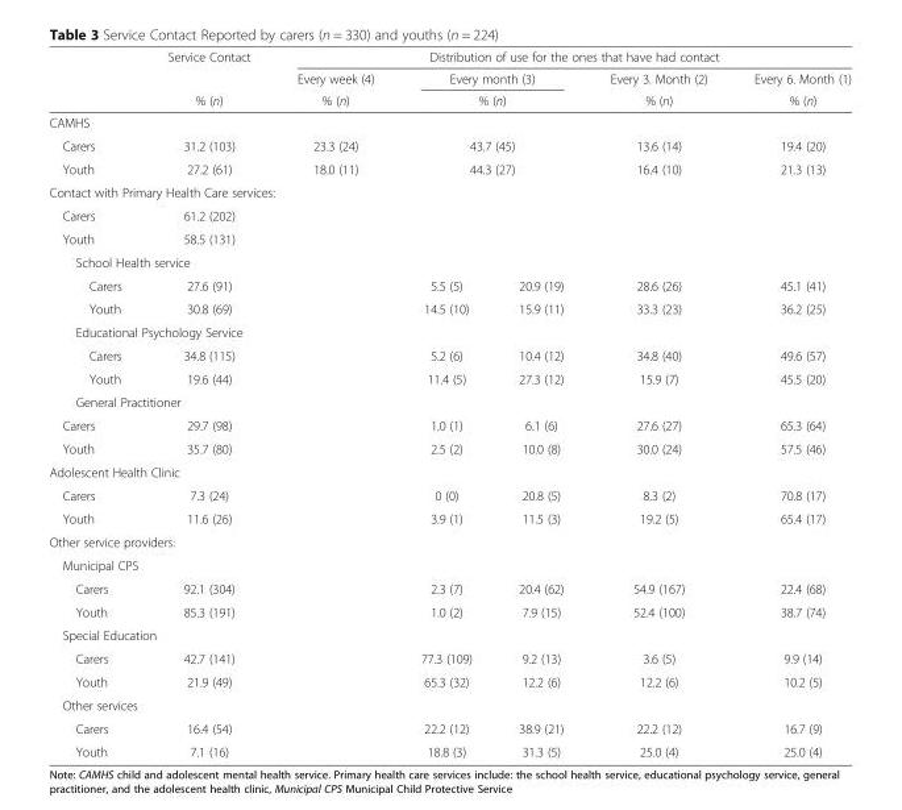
<table><thead><tr><td rowspan="3"></td><td rowspan="3">Service Contact % (n)</td><td colspan="5">Distribution of use for the ones that have had contact</td></tr><tr><td rowspan="2">Every week (4) % (n)</td><td rowspan="2" colspan="2">Every month (3) % (n)</td><td rowspan="2">Every 3. Month (2) % (n)</td><td rowspan="2">Every 6. Month (1) % (n)</td></tr><tr></tr></thead><tbody><tr><td colspan="7">CAMHS</td></tr><tr><td>Carers</td><td>31.2 (103)</td><td>23.3 (24)</td><td colspan="2">43.7 (45)</td><td>13.6 (14)</td><td>19.4 (20)</td></tr><tr><td>Youth</td><td>27.2 (61)</td><td>18.0 (11)</td><td colspan="2">44.3 (27)</td><td>16.4 (10)</td><td>21.3 (13)</td></tr><tr><td colspan="7">Contact with Primary Health Care services:</td></tr><tr><td>Carers</td><td>61.2 (202)</td><td></td><td colspan="2"></td><td></td><td></td></tr><tr><td>Youth</td><td>58.5 (131)</td><td></td><td colspan="2"></td><td></td><td></td></tr><tr><td colspan="7">School Health service</td></tr><tr><td>Carers</td><td>27.6 (91)</td><td></td><td>5.5 (5)</td><td>20.9 (19)</td><td>28.6 (26)</td><td>45.1 (41)</td></tr><tr><td>Youth</td><td>30.8 (69)</td><td></td><td>14.5 (10)</td><td>15.9 (11)</td><td>33.3 (23)</td><td>36.2 (25)</td></tr><tr><td colspan="7">Educational Psychology Service</td></tr><tr><td>Carers</td><td>34.8 (115)</td><td></td><td>5.2 (6)</td><td>10.4 (12)</td><td>34.8 (40)</td><td>49.6 (57)</td></tr><tr><td>Youth</td><td>19.6 (44)</td><td></td><td>11.4 (5)</td><td>27.3 (12)</td><td>15.9 (7)</td><td>45.5 (20)</td></tr><tr><td colspan="7">General Practitioner</td></tr><tr><td>Carers</td><td>29.7 (98)</td><td></td><td>1.0 (1)</td><td>6.1 (6)</td><td>27.6 (27)</td><td>65.3 (64)</td></tr><tr><td>Youth</td><td>35.7 (80)</td><td></td><td>2.5 (2)</td><td>10.0 (8)</td><td>30.0 (24)</td><td>57.5 (46)</td></tr><tr><td colspan="7">Adolescent Health Clinic</td></tr><tr><td>Carers</td><td>7.3 (24)</td><td></td><td>0 (0)</td><td>20.8 (5)</td><td>8.3 (2)</td><td>70.8 (17)</td></tr><tr><td>Youth</td><td>11.6 (26)</td><td></td><td>3.9 (1)</td><td>11.5 (3)</td><td>19.2 (5)</td><td>65.4 (17)</td></tr><tr><td colspan="7">Other service providers:</td></tr><tr><td colspan="7">Municipal CPS</td></tr><tr><td>Carers</td><td>92.1 (304)</td><td></td><td>2.3 (7)</td><td>20.4 (62)</td><td>54.9 (167)</td><td>22.4 (68)</td></tr><tr><td>Youth</td><td>85.3 (191)</td><td></td><td>1.0 (2)</td><td>7.9 (15)</td><td>52.4 (100)</td><td>38.7 (74)</td></tr><tr><td colspan="7">Special Education</td></tr><tr><td>Carers</td><td>42.7 (141)</td><td></td><td>77.3 (109)</td><td>9.2 (13)</td><td>3.6 (5)</td><td>9.9 (14)</td></tr><tr><td>Youth</td><td>21.9 (49)</td><td></td><td>65.3 (32)</td><td>12.2 (6)</td><td>12.2 (6)</td><td>10.2 (5)</td></tr><tr><td colspan="7">Other services</td></tr><tr><td>Carers</td><td>16.4 (54)</td><td></td><td>22.2 (12)</td><td>38.9 (21)</td><td>22.2 (12)</td><td>16.7 (9)</td></tr><tr><td>Youth</td><td>7.1 (16)</td><td></td><td>18.8 (3)</td><td>31.3 (5)</td><td>25.0 (4)</td><td>25.0 (4)</td></tr></tbody></table>